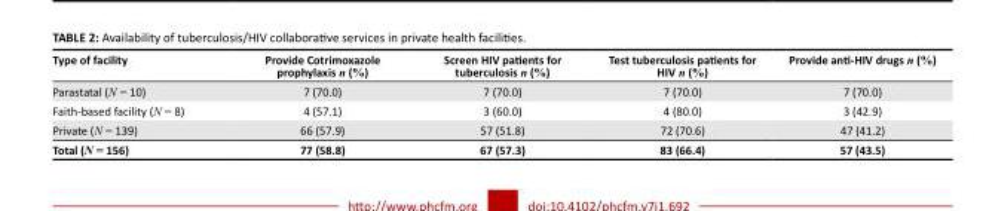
<table><thead><tr><td>Type of facility</td><td>Provide Cotrimoxazole prophylaxis n (%)</td><td>Screen HIV patients for tuberculosis n (%)</td><td>Test tuberculosis patients for HIV n (%)</td><td>Provide anti-HIV drugs n (%)</td></tr></thead><tbody><tr><td>Parastatal (N = 10)</td><td>7 (70.0)</td><td>7 (70.0)</td><td>7 (70.0)</td><td>7 (70.0)</td></tr><tr><td>Faith-based facility (N = 8)</td><td>4 (57.1)</td><td>3 (60.0)</td><td>4 (80.0)</td><td>3 (42.9)</td></tr><tr><td>Private (N = 139)</td><td>66 (57.9)</td><td>57 (51.8)</td><td>72 (70.6)</td><td>47 (41.2)</td></tr><tr><td>Total (N = 156)</td><td>77 (58.8)</td><td>67 (57.3)</td><td>83 (66.4)</td><td>57 (43.5)</td></tr></tbody></table>